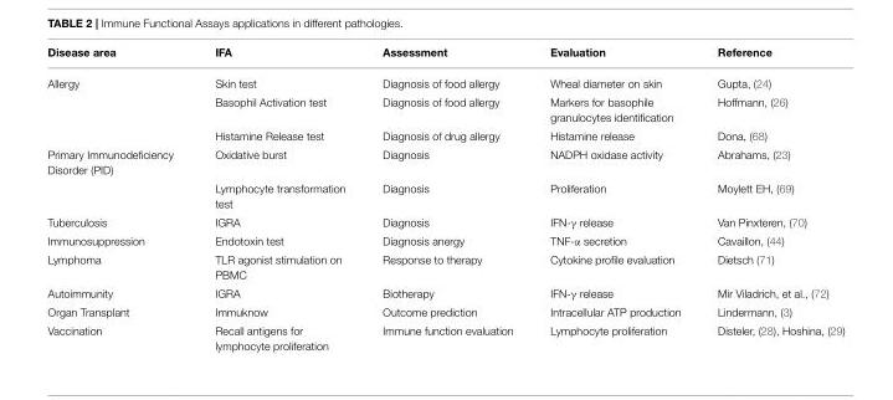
<table><thead><tr><td>Disease area</td><td>IFA</td><td>Assessment</td><td>Evaluation</td><td>Reference</td></tr></thead><tbody><tr><td rowspan="3">Allergy</td><td>Skin test</td><td>Diagnosis of food allergy</td><td>Wheal diameter on skin</td><td>Gupta, (24)</td></tr><tr><td>Basophil Activation test</td><td>Diagnosis of food allergy</td><td>Markers for basophile granulocytes identification</td><td>Hoffmann, (26)</td></tr><tr><td>Histamine Release test</td><td>Diagnosis of drug allergy</td><td>Histamine release</td><td>Dona, (68)</td></tr><tr><td rowspan="2">Primary Immunodeficiency Disorder (PID)</td><td>Oxidative burst</td><td>Diagnosis</td><td>NADPH oxidase activity</td><td>Abrahams, (23)</td></tr><tr><td>Lymphocyte transformation test</td><td>Diagnosis</td><td>Proliferation</td><td>Moylett EH, (69)</td></tr><tr><td>Tuberculosis</td><td>IGRA</td><td>Diagnosis</td><td>IFN-γ release</td><td>Van Pinxteren, (70)</td></tr><tr><td>Immunosuppression</td><td>Endotoxin test</td><td>Diagnosis anergy</td><td>TNF-α secretion</td><td>Cavaillon, (44)</td></tr><tr><td>Lymphoma</td><td>TLR agonist stimulation on PBMC</td><td>Response to therapy</td><td>Cytokine profile evaluation</td><td>Dietsch (71)</td></tr><tr><td>Autoimmunity</td><td>IGRA</td><td>Biotherapy</td><td>IFN-γ release</td><td>Mir Viladrich, et al., (72)</td></tr><tr><td>Organ Transplant</td><td>Immuknow</td><td>Outcome prediction</td><td>Intracellular ATP production</td><td>Lindermann, (3)</td></tr><tr><td>Vaccination</td><td>Recall antigens for lymphocyte proliferation</td><td>Immune function evaluation</td><td>Lymphocyte proliferation</td><td>Disteler, (28), Hoshina, (29)</td></tr></tbody></table>